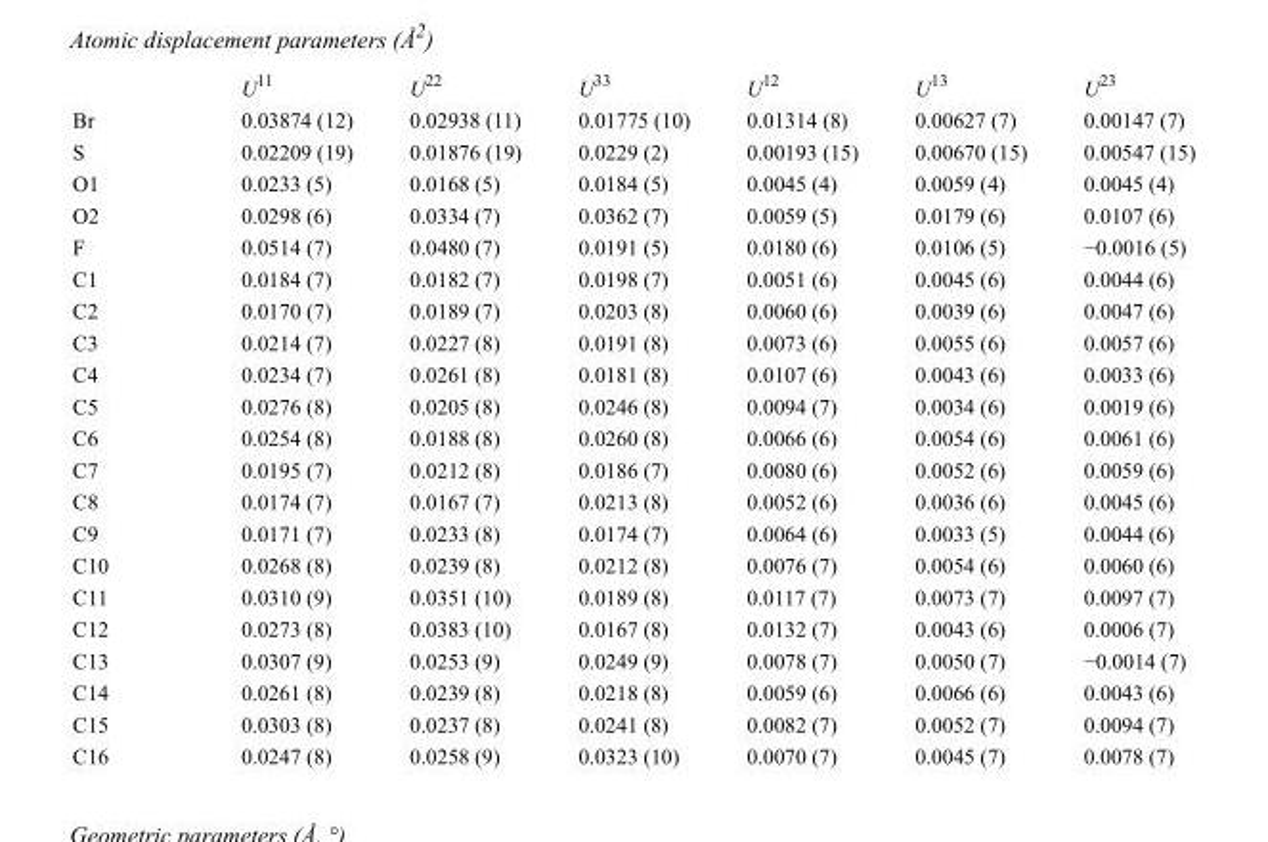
<table><thead><tr><td></td><td>U<sup>11</sup></td><td>U<sup>22</sup></td><td>U<sup>33</sup></td><td>U<sup>12</sup></td><td>U<sup>13</sup></td><td>U<sup>23</sup></td></tr></thead><tbody><tr><td>Br</td><td>0.03874 (12)</td><td>0.02938 (11)</td><td>0.01775 (10)</td><td>0.01314 (8)</td><td>0.00627 (7)</td><td>0.00147 (7)</td></tr><tr><td>S</td><td>0.02209 (19)</td><td>0.01876 (19)</td><td>0.0229 (2)</td><td>0.00193 (15)</td><td>0.00670 (15)</td><td>0.00547 (15)</td></tr><tr><td>O1</td><td>0.0233 (5)</td><td>0.0168 (5)</td><td>0.0184 (5)</td><td>0.0045 (4)</td><td>0.0059 (4)</td><td>0.0045 (4)</td></tr><tr><td>O2</td><td>0.0298 (6)</td><td>0.0334 (7)</td><td>0.0362 (7)</td><td>0.0059 (5)</td><td>0.0179 (6)</td><td>0.0107 (6)</td></tr><tr><td>F</td><td>0.0514 (7)</td><td>0.0480 (7)</td><td>0.0191 (5)</td><td>0.0180 (6)</td><td>0.0106 (5)</td><td>−0.0016 (5)</td></tr><tr><td>C1</td><td>0.0184 (7)</td><td>0.0182 (7)</td><td>0.0198 (7)</td><td>0.0051 (6)</td><td>0.0045 (6)</td><td>0.0044 (6)</td></tr><tr><td>C2</td><td>0.0170 (7)</td><td>0.0189 (7)</td><td>0.0203 (8)</td><td>0.0060 (6)</td><td>0.0039 (6)</td><td>0.0047 (6)</td></tr><tr><td>C3</td><td>0.0214 (7)</td><td>0.0227 (8)</td><td>0.0191 (8)</td><td>0.0073 (6)</td><td>0.0055 (6)</td><td>0.0057 (6)</td></tr><tr><td>C4</td><td>0.0234 (7)</td><td>0.0261 (8)</td><td>0.0181 (8)</td><td>0.0107 (6)</td><td>0.0043 (6)</td><td>0.0033 (6)</td></tr><tr><td>C5</td><td>0.0276 (8)</td><td>0.0205 (8)</td><td>0.0246 (8)</td><td>0.0094 (7)</td><td>0.0034 (6)</td><td>0.0019 (6)</td></tr><tr><td>C6</td><td>0.0254 (8)</td><td>0.0188 (8)</td><td>0.0260 (8)</td><td>0.0066 (6)</td><td>0.0054 (6)</td><td>0.0061 (6)</td></tr><tr><td>C7</td><td>0.0195 (7)</td><td>0.0212 (8)</td><td>0.0186 (7)</td><td>0.0080 (6)</td><td>0.0052 (6)</td><td>0.0059 (6)</td></tr><tr><td>C8</td><td>0.0174 (7)</td><td>0.0167 (7)</td><td>0.0213 (8)</td><td>0.0052 (6)</td><td>0.0036 (6)</td><td>0.0045 (6)</td></tr><tr><td>C9</td><td>0.0171 (7)</td><td>0.0233 (8)</td><td>0.0174 (7)</td><td>0.0064 (6)</td><td>0.0033 (5)</td><td>0.0044 (6)</td></tr><tr><td>C10</td><td>0.0268 (8)</td><td>0.0239 (8)</td><td>0.0212 (8)</td><td>0.0076 (7)</td><td>0.0054 (6)</td><td>0.0060 (6)</td></tr><tr><td>C11</td><td>0.0310 (9)</td><td>0.0351 (10)</td><td>0.0189 (8)</td><td>0.0117 (7)</td><td>0.0073 (7)</td><td>0.0097 (7)</td></tr><tr><td>C12</td><td>0.0273 (8)</td><td>0.0383 (10)</td><td>0.0167 (8)</td><td>0.0132 (7)</td><td>0.0043 (6)</td><td>0.0006 (7)</td></tr><tr><td>C13</td><td>0.0307 (9)</td><td>0.0253 (9)</td><td>0.0249 (9)</td><td>0.0078 (7)</td><td>0.0050 (7)</td><td>−0.0014 (7)</td></tr><tr><td>C14</td><td>0.0261 (8)</td><td>0.0239 (8)</td><td>0.0218 (8)</td><td>0.0059 (6)</td><td>0.0066 (6)</td><td>0.0043 (6)</td></tr><tr><td>C15</td><td>0.0303 (8)</td><td>0.0237 (8)</td><td>0.0241 (8)</td><td>0.0082 (7)</td><td>0.0052 (7)</td><td>0.0094 (7)</td></tr><tr><td>C16</td><td>0.0247 (8)</td><td>0.0258 (9)</td><td>0.0323 (10)</td><td>0.0070 (7)</td><td>0.0045 (7)</td><td>0.0078 (7)</td></tr></tbody></table>